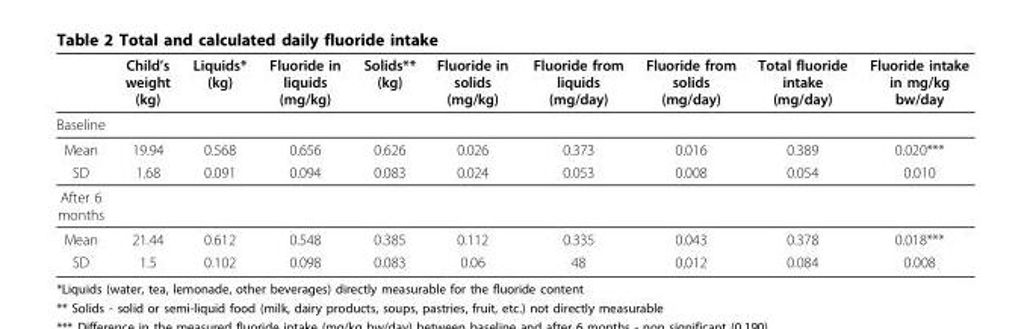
<table><thead><tr><td></td><td>Child’s weight (kg)</td><td>Liquids* (kg)</td><td>Fluoride in liquids (mg/kg)</td><td>Solids** (kg)</td><td>Fluoride in solids (mg/kg)</td><td>Fluoride from liquids (mg/day)</td><td>Fluoride from solids (mg/day)</td><td>Total fluoride intake (mg/day)</td><td>Fluoride intake in mg/kg bw/day</td></tr></thead><tbody><tr><td colspan="10">Baseline</td></tr><tr><td>Mean</td><td>19.94</td><td>0.568</td><td>0.656</td><td>0.626</td><td>0.026</td><td>0.373</td><td>0.016</td><td>0.389</td><td>0.020***</td></tr><tr><td>SD</td><td>1.68</td><td>0.091</td><td>0.094</td><td>0.083</td><td>0.024</td><td>0.053</td><td>0.008</td><td>0.054</td><td>0.010</td></tr><tr><td colspan="10">After 6 months</td></tr><tr><td>Mean</td><td>21.44</td><td>0.612</td><td>0.548</td><td>0.385</td><td>0.112</td><td>0.335</td><td>0.043</td><td>0.378</td><td>0.018***</td></tr><tr><td>SD</td><td>1.5</td><td>0.102</td><td>0.098</td><td>0.083</td><td>0.06</td><td>48</td><td>0,012</td><td>0.084</td><td>0.008</td></tr></tbody></table>